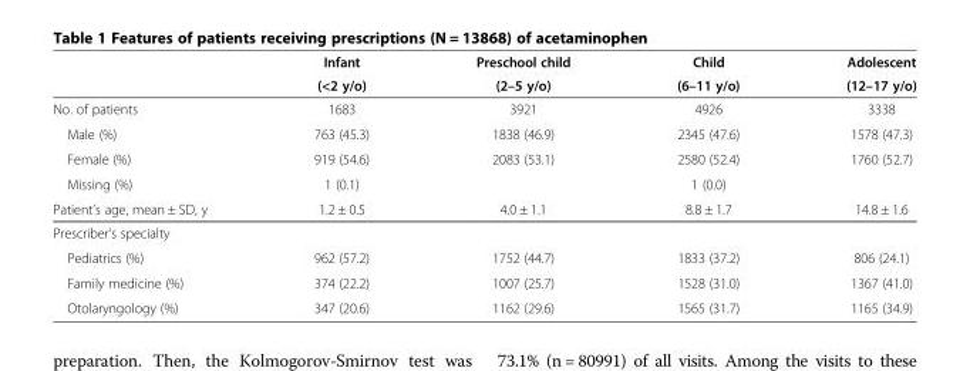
<table><thead><tr><td rowspan="2"></td><td rowspan="2">Infant (&lt;2 y/o)</td><td rowspan="2">Preschool child (2–5 y/o)</td><td rowspan="2">Child (6–11 y/o)</td><td rowspan="2">Adolescent (12–17 y/o)</td></tr><tr></tr></thead><tbody><tr><td>No. of patients</td><td>1683</td><td>3921</td><td>4926</td><td>3338</td></tr><tr><td>Male (%)</td><td>763 (45.3)</td><td>1838 (46.9)</td><td>2345 (47.6)</td><td>1578 (47.3)</td></tr><tr><td>Female (%)</td><td>919 (54.6)</td><td>2083 (53.1)</td><td>2580 (52.4)</td><td>1760 (52.7)</td></tr><tr><td>Missing (%)</td><td>1 (0.1)</td><td></td><td>1 (0.0)</td><td></td></tr><tr><td>Patient’s age, mean ± SD, y</td><td>1.2 ± 0.5</td><td>4.0 ± 1.1</td><td>8.8 ± 1.7</td><td>14.8 ± 1.6</td></tr><tr><td colspan="5">Prescriber’s specialty</td></tr><tr><td>Pediatrics (%)</td><td>962 (57.2)</td><td>1752 (44.7)</td><td>1833 (37.2)</td><td>806 (24.1)</td></tr><tr><td>Family medicine (%)</td><td>374 (22.2)</td><td>1007 (25.7)</td><td>1528 (31.0)</td><td>1367 (41.0)</td></tr><tr><td>Otolaryngology (%)</td><td>347 (20.6)</td><td>1162 (29.6)</td><td>1565 (31.7)</td><td>1165 (34.9)</td></tr></tbody></table>